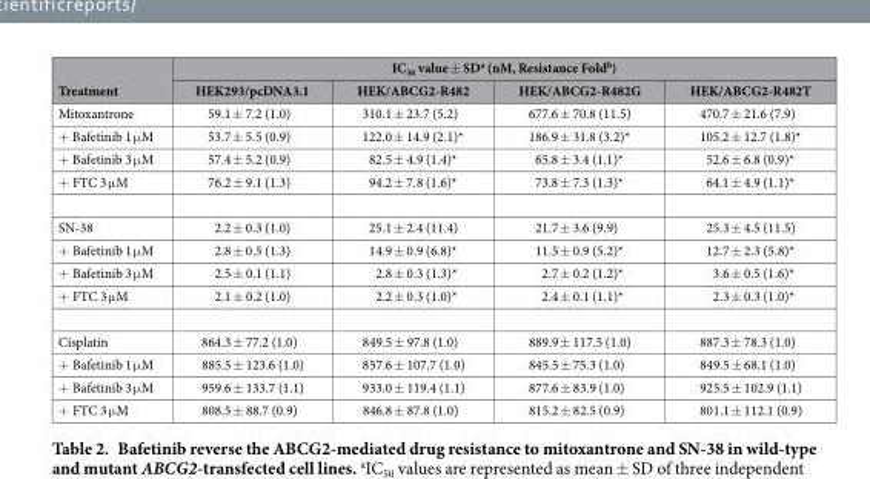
<table><thead><tr><td rowspan="2">Treatment</td><td colspan="4">IC<sub>50</sub> value ± SD<sup>a</sup> (nM, Resistance Fold<sup>b</sup>)</td></tr><tr><td>HEK293/pcDNA3.1</td><td>HEK/ABCG2-R482</td><td>HEK/ABCG2-R482G</td><td>HEK/ABCG2-R482T</td></tr></thead><tbody><tr><td>Mitoxantrone</td><td>59.1 ± 7.2 (1.0)</td><td>310.1 ± 23.7 (5.2)</td><td>677.6 ± 70.8 (11.5)</td><td>470.7 ± 21.6 (7.9)</td></tr><tr><td>+ Bafetinib 1 μ M</td><td>53.7 ± 5.5 (0.9)</td><td>122.0 ± 14.9 (2.1)*</td><td>186.9 ± 31.8 (3.2)*</td><td>105.2 ± 12.7 (1.8)*</td></tr><tr><td>+ Bafetinib 3 μ M</td><td>57.4 ± 5.2 (0.9)</td><td>82.5 ± 4.9 (1.4)*</td><td>65.8 ± 3.4 (1.1)*</td><td>52.6 ± 6.8 (0.9)*</td></tr><tr><td>+ FTC 3 μ M</td><td>76.2 ± 9.1 (1.3)</td><td>94.2 ± 7.8 (1.6)*</td><td>73.8 ± 7.3 (1.3)*</td><td>64.1 ± 4.9 (1.1)*</td></tr><tr><td>SN-38</td><td>2.2 ± 0.3 (1.0)</td><td>25.1 ± 2.4 (11.4)</td><td>21.7 ± 3.6 (9.9)</td><td>25.3 ± 4.5 (11.5)</td></tr><tr><td>+ Bafetinib 1 μ M</td><td>2.8 ± 0.5 (1.3)</td><td>14.9 ± 0.9 (6.8)*</td><td>11.5 ± 0.9 (5.2)*</td><td>12.7 ± 2.3 (5.8)*</td></tr><tr><td>+ Bafetinib 3 μ M</td><td>2.5 ± 0.1 (1.1)</td><td>2.8 ± 0.3 (1.3)*</td><td>2.7 ± 0.2 (1.2)*</td><td>3.6 ± 0.5 (1.6)*</td></tr><tr><td>+ FTC 3 μ M</td><td>2.1 ± 0.2 (1.0)</td><td>2.2 ± 0.3 (1.0)*</td><td>2.4 ± 0.1 (1.1)*</td><td>2.3 ± 0.3 (1.0)*</td></tr><tr><td>Cisplatin</td><td>864.3 ± 77.2 (1.0)</td><td>849.5 ± 97.8 (1.0)</td><td>889.9 ± 117.5 (1.0)</td><td>887.3 ± 78.3 (1.0)</td></tr><tr><td>+ Bafetinib 1 μ M</td><td>885.5 ± 123.6 (1.0)</td><td>857.6 ± 107.7 (1.0)</td><td>845.5 ± 75.3 (1.0)</td><td>849.5 ± 68.1 (1.0)</td></tr><tr><td>+ Bafetinib 3 μ M</td><td>959.6 ± 133.7 (1.1)</td><td>933.0 ± 119.4 (1.1)</td><td>877.6 ± 83.9 (1.0)</td><td>925.5 ± 102.9 (1.1)</td></tr><tr><td>+ FTC 3 μ M</td><td>808.5 ± 88.7 (0.9)</td><td>846.8 ± 87.8 (1.0)</td><td>815.2 ± 82.5 (0.9)</td><td>801.1 ± 112.1 (0.9)</td></tr></tbody></table>